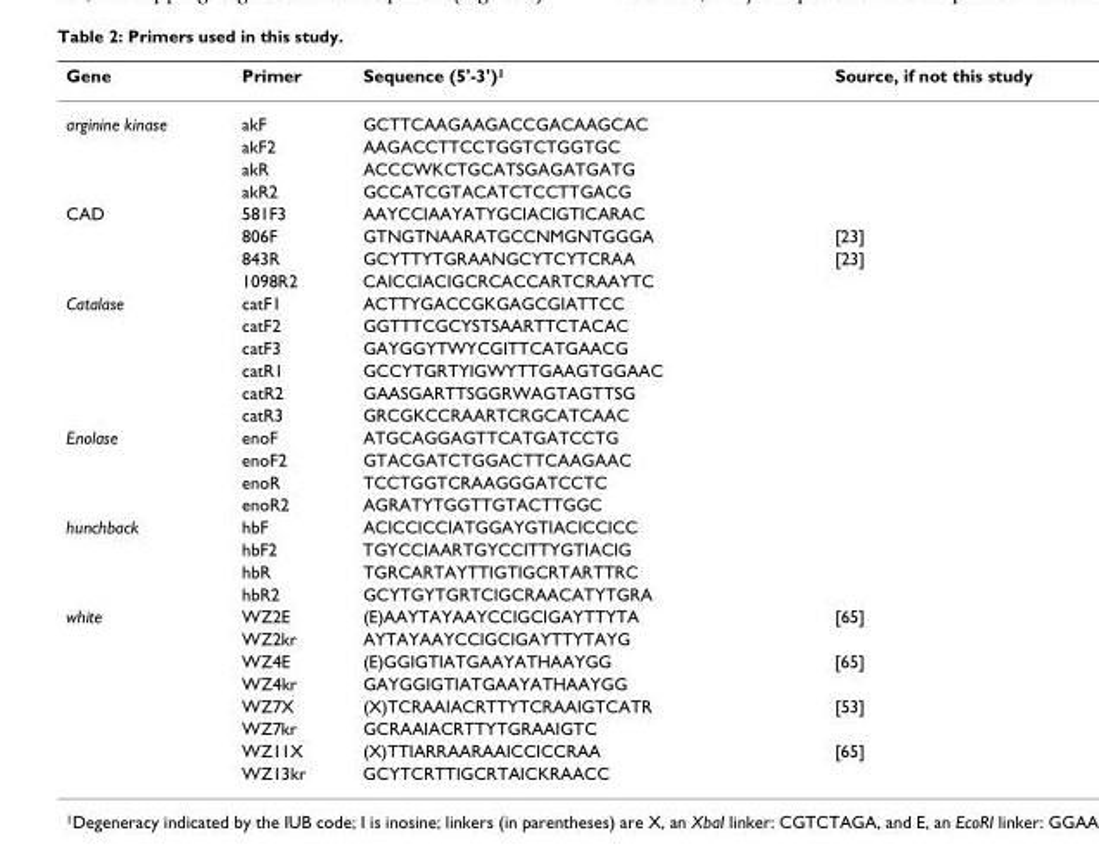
<table><thead><tr><td>Gene</td><td>Primer</td><td>Sequence (5&#x27;-3&#x27;)<sup>1</sup></td><td>Source, if not this study</td></tr></thead><tbody><tr><td rowspan="4">arginine kinase</td><td>akF</td><td>GCTTCAAGAAGACCGACAAGCAC</td><td></td></tr><tr><td>akF2</td><td>AAGACCTTCCTGGTCTGGTGC</td><td></td></tr><tr><td>akR</td><td>ACCCWKCTGCATSGAGATGATG</td><td></td></tr><tr><td>akR2</td><td>GCCATCGTACATCTCCTTGACG</td><td></td></tr><tr><td rowspan="4">CAD</td><td>581F3</td><td>AAYCCIAAYATYGCIACIGTICARAC</td><td></td></tr><tr><td>806F</td><td>GTNGTNAARATGCCNMGNTGGGA</td><td>[23]</td></tr><tr><td>843R</td><td>GCYTTYTGRAANGCYTCYTCRAA</td><td>[23]</td></tr><tr><td>1098R2</td><td>CAICCIACIGCRCACCARTCRAAYTC</td><td></td></tr><tr><td rowspan="6">Catalase</td><td>catF1</td><td>ACTTYGACCGKGAGCGIATTCC</td><td></td></tr><tr><td>catF2</td><td>GGTTTCGCYSTSAARTTCTACAC</td><td></td></tr><tr><td>catF3</td><td>GAYGGYTWYCGITTCATGAACG</td><td></td></tr><tr><td>catR1</td><td>GCCYTGRTYIGWYTTGAAGTGGAAC</td><td></td></tr><tr><td>catR2</td><td>GAASGARTTSGGRWAGTAGTTSG</td><td></td></tr><tr><td>catR3</td><td>GRCGKCCRAARTCRGCATCAAC</td><td></td></tr><tr><td rowspan="4">Enolase</td><td>enoF</td><td>ATGCAGGAGTTCATGATCCTG</td><td></td></tr><tr><td>enoF2</td><td>GTACGATCTGGACTTCAAGAAC</td><td></td></tr><tr><td>enoR</td><td>TCCTGGTCRAAGGGATCCTC</td><td></td></tr><tr><td>enoR2</td><td>AGRATYTGGTTGTACTTGGC</td><td></td></tr><tr><td rowspan="4">hunchback</td><td>hbF</td><td>ACICCICCIATGGAYGTIACICCICC</td><td></td></tr><tr><td>hbF2</td><td>TGYCCIAARTGYCCITTYGTIACIG</td><td></td></tr><tr><td>hbR</td><td>TGRCARTAYTTIGTIGCRTARTTRC</td><td></td></tr><tr><td>hbR2</td><td>GCYTGYTGRTCIGCRAACATYTGRA</td><td></td></tr><tr><td rowspan="8">white</td><td>WZ2E</td><td>(E)AAYTAYAAYCCIGCIGAYTTYTA</td><td>[65]</td></tr><tr><td>WZ2kr</td><td>AYTAYAAYCCIGCIGAYTTYTAYG</td><td></td></tr><tr><td>WZ4E</td><td>(E)GGIGTIATGAAYATHAAYGG</td><td>[65]</td></tr><tr><td>WZ4kr</td><td>GAYGGIGTIATGAAYATHAAYGG</td><td></td></tr><tr><td>WZ7X</td><td>(X)TCRAAIACRTTYTCRAAIGTCATR</td><td>[53]</td></tr><tr><td>WZ7kr</td><td>GCRAAIACRTTYTGRAAIGTC</td><td></td></tr><tr><td>WZ11X</td><td>(X)TTIARRAARAAICCICCRAA</td><td>[65]</td></tr><tr><td>WZ13kr</td><td>GCYTCRTTIGCRTAICKRAACC</td><td></td></tr></tbody></table>